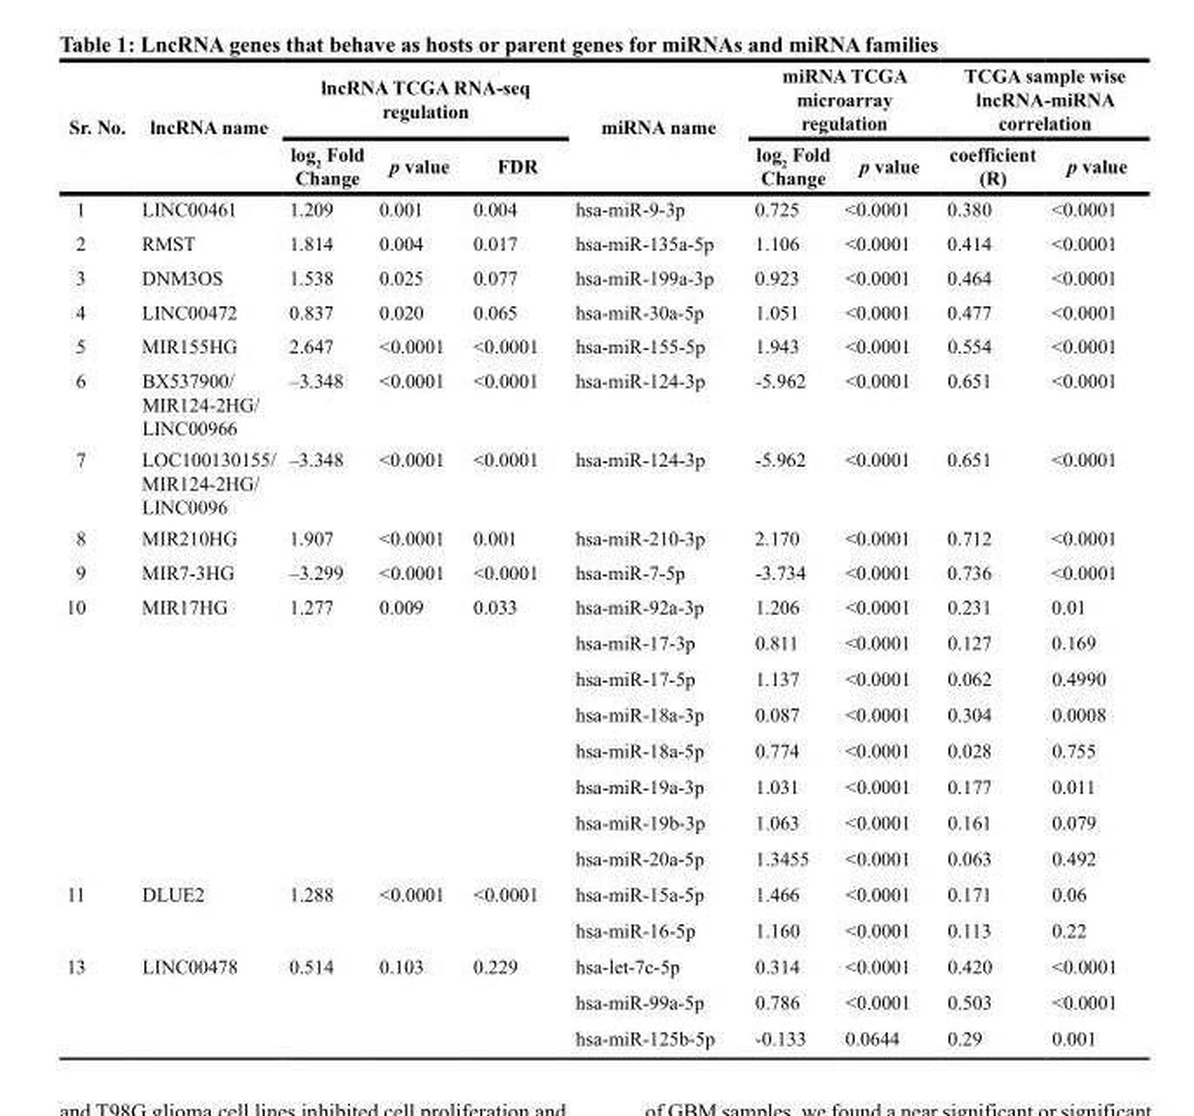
<table><thead><tr><td rowspan="2">sr. no.</td><td rowspan="2">lncrnA name</td><td colspan="3">lncrnA tcGA rnA-seq regulation</td><td rowspan="2">mirnA name</td><td colspan="2">mirnA tcGA microarray regulation</td><td colspan="2">tcGA sample wise lncrnA-mirnA correlation</td></tr><tr><td>log<sub>2</sub> Fold change</td><td>p value</td><td>Fdr</td><td>log<sub>2</sub> Fold change</td><td>p value</td><td>coefficient (r)</td><td>p value</td></tr></thead><tbody><tr><td>1</td><td>LINC00461</td><td>1.209</td><td>0.001</td><td>0.004</td><td>hsa-miR-9-3p</td><td>0.725</td><td>&lt;0.0001</td><td>0.380</td><td>&lt;0.0001</td></tr><tr><td>2</td><td>RMST</td><td>1.814</td><td>0.004</td><td>0.017</td><td>hsa-miR-135a-5p</td><td>1.106</td><td>&lt;0.0001</td><td>0.414</td><td>&lt;0.0001</td></tr><tr><td>3</td><td>DNM3OS</td><td>1.538</td><td>0.025</td><td>0.077</td><td>hsa-miR-199a-3p</td><td>0.923</td><td>&lt;0.0001</td><td>0.464</td><td>&lt;0.0001</td></tr><tr><td>4</td><td>LINC00472</td><td>0.837</td><td>0.020</td><td>0.065</td><td>hsa-miR-30a-5p</td><td>1.051</td><td>&lt;0.0001</td><td>0.477</td><td>&lt;0.0001</td></tr><tr><td>5</td><td>MIR155HG</td><td>2.647</td><td>&lt;0.0001</td><td>&lt;0.0001</td><td>hsa-miR-155-5p</td><td>1.943</td><td>&lt;0.0001</td><td>0.554</td><td>&lt;0.0001</td></tr><tr><td>6</td><td>BX537900/ MIR124-2HG/ LINC00966</td><td>–3.348</td><td>&lt;0.0001</td><td>&lt;0.0001</td><td>hsa-miR-124-3p</td><td>-5.962</td><td>&lt;0.0001</td><td>0.651</td><td>&lt;0.0001</td></tr><tr><td>7</td><td>LOC100130155/ MIR124-2HG/ LINC0096</td><td>–3.348</td><td>&lt;0.0001</td><td>&lt;0.0001</td><td>hsa-miR-124-3p</td><td>-5.962</td><td>&lt;0.0001</td><td>0.651</td><td>&lt;0.0001</td></tr><tr><td>8</td><td>MIR210HG</td><td>1.907</td><td>&lt;0.0001</td><td>0.001</td><td>hsa-miR-210-3p</td><td>2.170</td><td>&lt;0.0001</td><td>0.712</td><td>&lt;0.0001</td></tr><tr><td>9</td><td>MIR7-3HG</td><td>–3.299</td><td>&lt;0.0001</td><td>&lt;0.0001</td><td>hsa-miR-7-5p</td><td>-3.734</td><td>&lt;0.0001</td><td>0.736</td><td>&lt;0.0001</td></tr><tr><td rowspan="8">10</td><td rowspan="8">MIR17HG</td><td rowspan="8">1.277</td><td rowspan="8">0.009</td><td rowspan="8">0.033</td><td>hsa-miR-92a-3p</td><td>1.206</td><td>&lt;0.0001</td><td>0.231</td><td>0.01</td></tr><tr><td>hsa-miR-17-3p</td><td>0.811</td><td>&lt;0.0001</td><td>0.127</td><td>0.169</td></tr><tr><td>hsa-miR-17-5p</td><td>1.137</td><td>&lt;0.0001</td><td>0.062</td><td>0.4990</td></tr><tr><td>hsa-miR-18a-3p</td><td>0.087</td><td>&lt;0.0001</td><td>0.304</td><td>0.0008</td></tr><tr><td>hsa-miR-18a-5p</td><td>0.774</td><td>&lt;0.0001</td><td>0.028</td><td>0.755</td></tr><tr><td>hsa-miR-19a-3p</td><td>1.031</td><td>&lt;0.0001</td><td>0.177</td><td>0.011</td></tr><tr><td>hsa-miR-19b-3p</td><td>1.063</td><td>&lt;0.0001</td><td>0.161</td><td>0.079</td></tr><tr><td>hsa-miR-20a-5p</td><td>1.3455</td><td>&lt;0.0001</td><td>0.063</td><td>0.492</td></tr><tr><td rowspan="2">11</td><td rowspan="2">DLUE2</td><td rowspan="2">1.288</td><td rowspan="2">&lt;0.0001</td><td rowspan="2">&lt;0.0001</td><td>hsa-miR-15a-5p</td><td>1.466</td><td>&lt;0.0001</td><td>0.171</td><td>0.06</td></tr><tr><td>hsa-miR-16-5p</td><td>1.160</td><td>&lt;0.0001</td><td>0.113</td><td>0.22</td></tr><tr><td rowspan="3">13</td><td rowspan="3">LINC00478</td><td rowspan="3">0.514</td><td rowspan="3">0.103</td><td rowspan="3">0.229</td><td>hsa-let-7c-5p</td><td>0.314</td><td>&lt;0.0001</td><td>0.420</td><td>&lt;0.0001</td></tr><tr><td>hsa-miR-99a-5p</td><td>0.786</td><td>&lt;0.0001</td><td>0.503</td><td>&lt;0.0001</td></tr><tr><td>hsa-miR-125b-5p</td><td>-0.133</td><td>0.0644</td><td>0.29</td><td>0.001</td></tr></tbody></table>